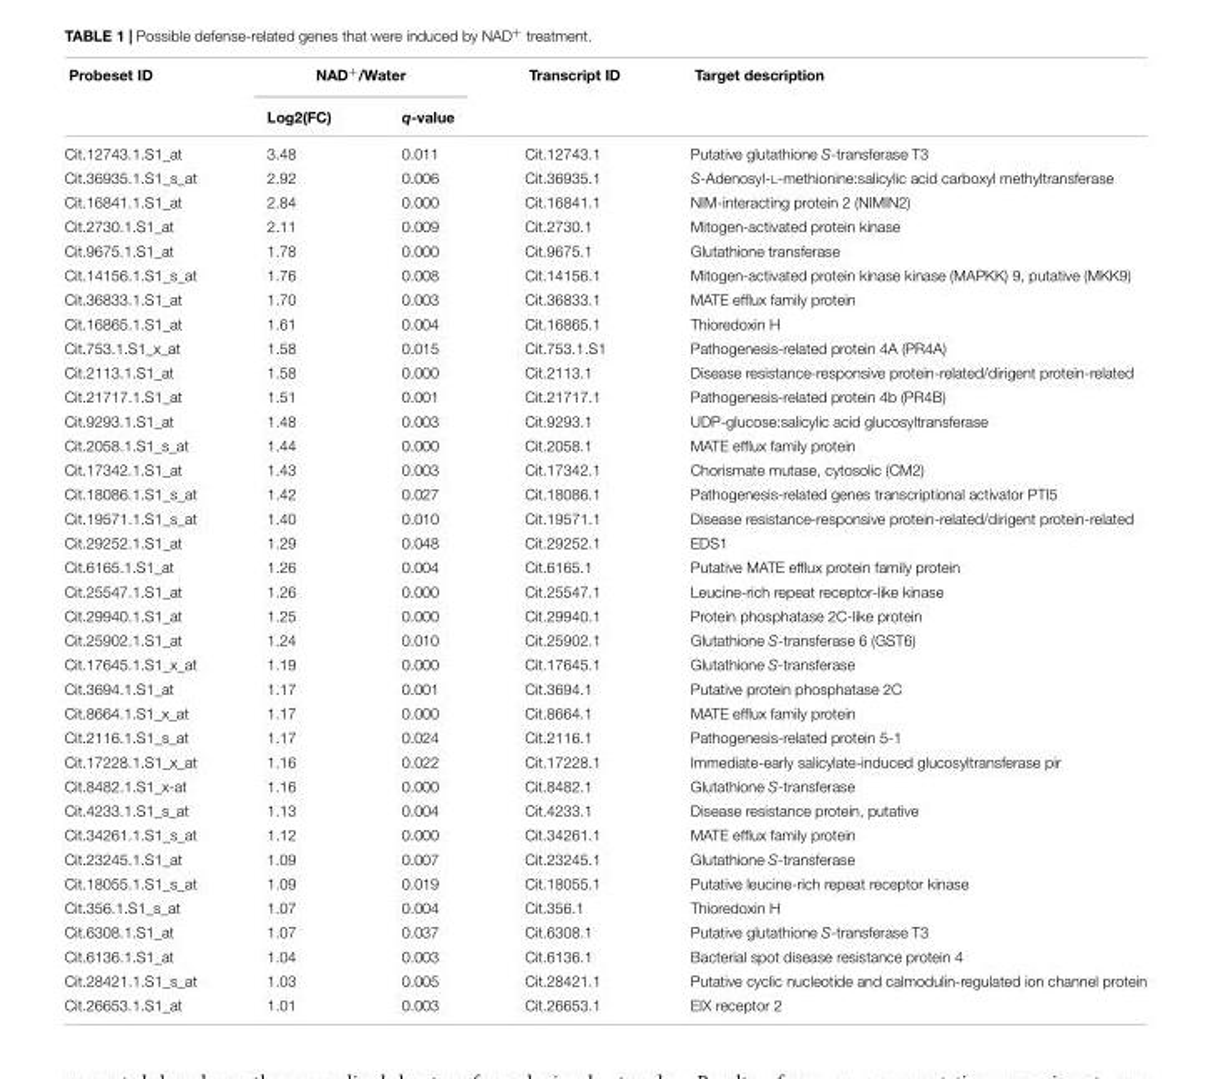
<table><thead><tr><td rowspan="2">Probeset ID</td><td colspan="2">NAD<sup>+</sup>/Water</td><td rowspan="2">Transcript ID</td><td rowspan="2">Target description</td></tr><tr><td>Log2(FC)</td><td>q-value</td></tr></thead><tbody><tr><td>Cit.12743.1.S1_at</td><td>3.48</td><td>0.011</td><td>Cit.12743.1</td><td>Putative glutathione S-transferase T3</td></tr><tr><td>Cit.36935.1.S1_s_at</td><td>2.92</td><td>0.006</td><td>Cit.36935.1</td><td>S-Adenosyl-L-methionine:salicylic acid carboxyl methyltransferase</td></tr><tr><td>Cit.16841.1.S1_at</td><td>2.84</td><td>0.000</td><td>Cit.16841.1</td><td>NIM-interacting protein 2 (NIMIN2)</td></tr><tr><td>Cit.2730.1.S1_at</td><td>2.11</td><td>0.009</td><td>Cit.2730.1</td><td>Mitogen-activated protein kinase</td></tr><tr><td>Cit.9675.1.S1_at</td><td>1.78</td><td>0.000</td><td>Cit.9675.1</td><td>Glutathione transferase</td></tr><tr><td>Cit.14156.1.S1_s_at</td><td>1.76</td><td>0.008</td><td>Cit.14156.1</td><td>Mitogen-activated protein kinase kinase (MAPKK) 9, putative (MKK9)</td></tr><tr><td>Cit.36833.1.S1_at</td><td>1.70</td><td>0.003</td><td>Cit.36833.1</td><td>MATE efflux family protein</td></tr><tr><td>Cit.16865.1.S1_at</td><td>1.61</td><td>0.004</td><td>Cit.16865.1</td><td>Thioredoxin H</td></tr><tr><td>Cit.753.1.S1_x_at</td><td>1.58</td><td>0.015</td><td>Cit.753.1.S1</td><td>Pathogenesis-related protein 4A (PR4A)</td></tr><tr><td>Cit.2113.1.S1_at</td><td>1.58</td><td>0.000</td><td>Cit.2113.1</td><td>Disease resistance-responsive protein-related/dirigent protein-related</td></tr><tr><td>Cit.21717.1.S1_at</td><td>1.51</td><td>0.001</td><td>Cit.21717.1</td><td>Pathogenesis-related protein 4b (PR4B)</td></tr><tr><td>Cit.9293.1.S1_at</td><td>1.48</td><td>0.003</td><td>Cit.9293.1</td><td>UDP-glucose:salicylic acid glucosyltransferase</td></tr><tr><td>Cit.2058.1.S1_s_at</td><td>1.44</td><td>0.000</td><td>Cit.2058.1</td><td>MATE efflux family protein</td></tr><tr><td>Cit.17342.1.S1_at</td><td>1.43</td><td>0.003</td><td>Cit.17342.1</td><td>Chorismate mutase, cytosolic (CM2)</td></tr><tr><td>Cit.18086.1.S1_s_at</td><td>1.42</td><td>0.027</td><td>Cit.18086.1</td><td>Pathogenesis-related genes transcriptional activator PTI5</td></tr><tr><td>Cit.19571.1.S1_s_at</td><td>1.40</td><td>0.010</td><td>Cit.19571.1</td><td>Disease resistance-responsive protein-related/dirigent protein-related</td></tr><tr><td>Cit.29252.1.S1_at</td><td>1.29</td><td>0.048</td><td>Cit.29252.1</td><td>EDS1</td></tr><tr><td>Cit.6165.1.S1_at</td><td>1.26</td><td>0.004</td><td>Cit.6165.1</td><td>Putative MATE efflux protein family protein</td></tr><tr><td>Cit.25547.1.S1_at</td><td>1.26</td><td>0.000</td><td>Cit.25547.1</td><td>Leucine-rich repeat receptor-like kinase</td></tr><tr><td>Cit.29940.1.S1_at</td><td>1.25</td><td>0.000</td><td>Cit.29940.1</td><td>Protein phosphatase 2C-like protein</td></tr><tr><td>Cit.25902.1.S1_at</td><td>1.24</td><td>0.010</td><td>Cit.25902.1</td><td>Glutathione S-transferase 6 (GST6)</td></tr><tr><td>Cit.17645.1.S1_x_at</td><td>1.19</td><td>0.000</td><td>Cit.17645.1</td><td>Glutathione S-transferase</td></tr><tr><td>Cit.3694.1.S1_at</td><td>1.17</td><td>0.001</td><td>Cit.3694.1</td><td>Putative protein phosphatase 2C</td></tr><tr><td>Cit.8664.1.S1_x_at</td><td>1.17</td><td>0.000</td><td>Cit.8664.1</td><td>MATE efflux family protein</td></tr><tr><td>Cit.2116.1.S1_s_at</td><td>1.17</td><td>0.024</td><td>Cit.2116.1</td><td>Pathogenesis-related protein 5-1</td></tr><tr><td>Cit.17228.1.S1_x_at</td><td>1.16</td><td>0.022</td><td>Cit.17228.1</td><td>Immediate-early salicylate-induced glucosyltransferase pir</td></tr><tr><td>Cit.8482.1.S1_x-at</td><td>1.16</td><td>0.000</td><td>Cit.8482.1</td><td>Glutathione S-transferase</td></tr><tr><td>Cit.4233.1.S1_s_at</td><td>1.13</td><td>0.004</td><td>Cit.4233.1</td><td>Disease resistance protein, putative</td></tr><tr><td>Cit.34261.1.S1_s_at</td><td>1.12</td><td>0.000</td><td>Cit.34261.1</td><td>MATE efflux family protein</td></tr><tr><td>Cit.23245.1.S1_at</td><td>1.09</td><td>0.007</td><td>Cit.23245.1</td><td>Glutathione S-transferase</td></tr><tr><td>Cit.18055.1.S1_s_at</td><td>1.09</td><td>0.019</td><td>Cit.18055.1</td><td>Putative leucine-rich repeat receptor kinase</td></tr><tr><td>Cit.356.1.S1_s_at</td><td>1.07</td><td>0.004</td><td>Cit.356.1</td><td>Thioredoxin H</td></tr><tr><td>Cit.6308.1.S1_at</td><td>1.07</td><td>0.037</td><td>Cit.6308.1</td><td>Putative glutathione S-transferase T3</td></tr><tr><td>Cit.6136.1.S1_at</td><td>1.04</td><td>0.003</td><td>Cit.6136.1</td><td>Bacterial spot disease resistance protein 4</td></tr><tr><td>Cit.28421.1.S1_s_at</td><td>1.03</td><td>0.005</td><td>Cit.28421.1</td><td>Putative cyclic nucleotide and calmodulin-regulated ion channel protein</td></tr><tr><td>Cit.26653.1.S1_at</td><td>1.01</td><td>0.003</td><td>Cit.26653.1</td><td>EIX receptor 2</td></tr></tbody></table>